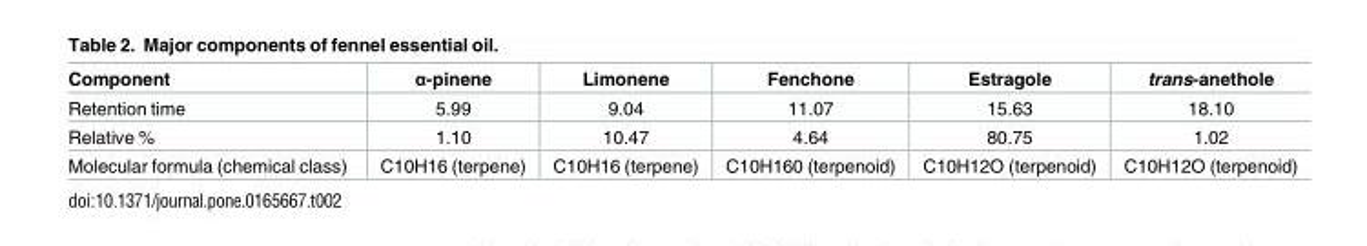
<table><thead><tr><td>Component</td><td>α-pinene</td><td>Limonene</td><td>Fenchone</td><td>Estragole</td><td>trans-anethole</td></tr></thead><tbody><tr><td>Retention time</td><td>5.99</td><td>9.04</td><td>11.07</td><td>15.63</td><td>18.10</td></tr><tr><td>Relative %</td><td>1.10</td><td>10.47</td><td>4.64</td><td>80.75</td><td>1.02</td></tr><tr><td>Molecular formula (chemical class)</td><td>C10H16 (terpene)</td><td>C10H16 (terpene)</td><td>C10H160 (terpenoid)</td><td>C10H12O (terpenoid)</td><td>C10H12O (terpenoid)</td></tr></tbody></table>